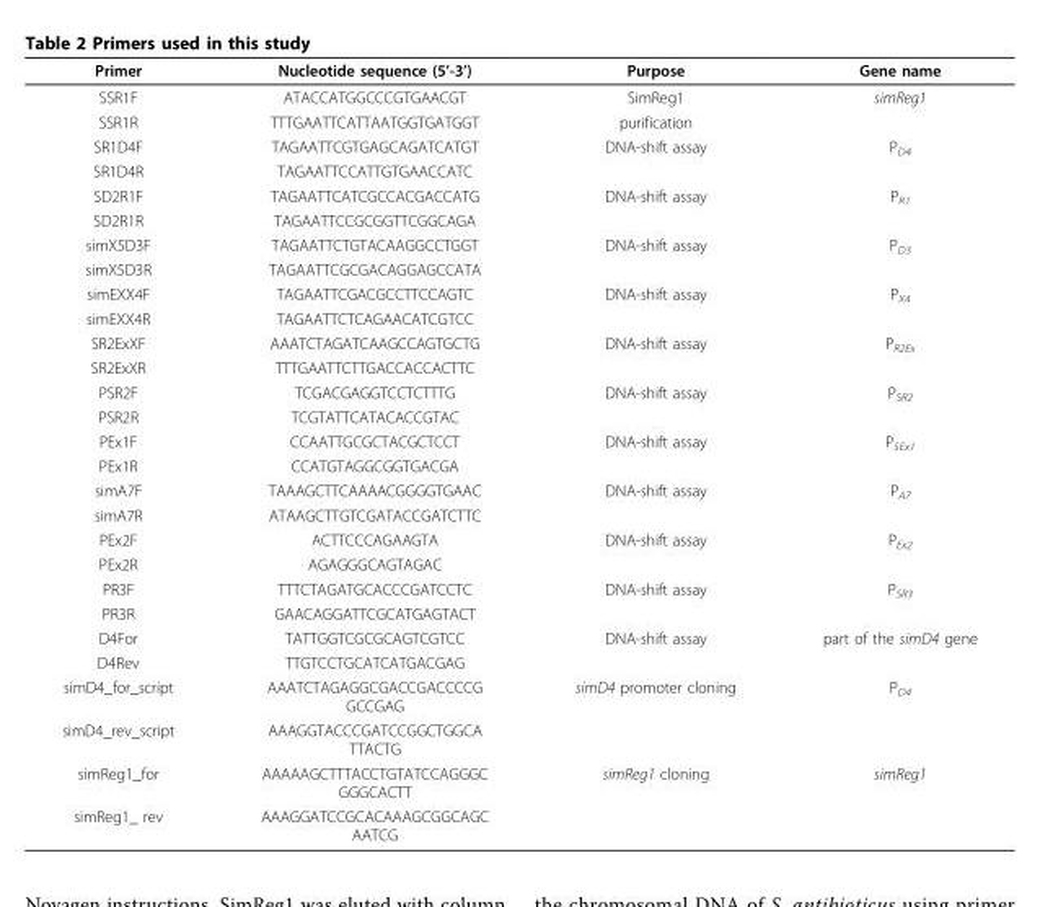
<table><thead><tr><td>Primer</td><td>Nucleotide sequence (5’-3’)</td><td>Purpose</td><td>Gene name</td></tr></thead><tbody><tr><td>SSR1F</td><td>ATACCATGGCCCGTGAACGT</td><td>SimReg1</td><td>simReg1</td></tr><tr><td>SSR1R</td><td>TTTGAATTCATTAATGGTGATGGT</td><td>purification</td><td></td></tr><tr><td>SR1D4F</td><td>TAGAATTCGTGAGCAGATCATGT</td><td>DNA-shift assay</td><td>P<sub>D4</sub></td></tr><tr><td>SR1D4R</td><td>TAGAATTCCATTGTGAACCATC</td><td></td><td></td></tr><tr><td>SD2R1F</td><td>TAGAATTCATCGCCACGACCATG</td><td>DNA-shift assay</td><td>P<sub>R1</sub></td></tr><tr><td>SD2R1R</td><td>TAGAATTCCGCGGTTCGGCAGA</td><td></td><td></td></tr><tr><td>simX5D3F</td><td>TAGAATTCTGTACAAGGCCTGGT</td><td>DNA-shift assay</td><td>P<sub>D3</sub></td></tr><tr><td>simX5D3R</td><td>TAGAATTCGCGACAGGAGCCATA</td><td></td><td></td></tr><tr><td>simEXX4F</td><td>TAGAATTCGACGCCTTCCAGTC</td><td>DNA-shift assay</td><td>P<sub>X4</sub></td></tr><tr><td>simEXX4R</td><td>TAGAATTCTCAGAACATCGTCC</td><td></td><td></td></tr><tr><td>SR2ExXF</td><td>AAATCTAGATCAAGCCAGTGCTG</td><td>DNA-shift assay</td><td>P<sub>R2Ex</sub></td></tr><tr><td>SR2ExXR</td><td>TTTGAATTCTTGACCACCACTTC</td><td></td><td></td></tr><tr><td>PSR2F</td><td>TCGACGAGGTCCTCTTTG</td><td>DNA-shift assay</td><td>P<sub>SR2</sub></td></tr><tr><td>PSR2R</td><td>TCGTATTCATACACCGTAC</td><td></td><td></td></tr><tr><td>PEx1F</td><td>CCAATTGCGCTACGCTCCT</td><td>DNA-shift assay</td><td>P<sub>SEx1</sub></td></tr><tr><td>PEx1R</td><td>CCATGTAGGCGGTGACGA</td><td></td><td></td></tr><tr><td>simA7F</td><td>TAAAGCTTCAAAACGGGGTGAAC</td><td>DNA-shift assay</td><td>P<sub>A7</sub></td></tr><tr><td>simA7R</td><td>ATAAGCTTGTCGATACCGATCTTC</td><td></td><td></td></tr><tr><td>PEx2F</td><td>ACTTCCCAGAAGTA</td><td>DNA-shift assay</td><td>P<sub>Ex2</sub></td></tr><tr><td>PEx2R</td><td>AGAGGGCAGTAGAC</td><td></td><td></td></tr><tr><td>PR3F</td><td>TTTCTAGATGCACCCGATCCTC</td><td>DNA-shift assay</td><td>P<sub>SR3</sub></td></tr><tr><td>PR3R</td><td>GAACAGGATTCGCATGAGTACT</td><td></td><td></td></tr><tr><td>D4For</td><td>TATTGGTCGCGCAGTCGTCC</td><td>DNA-shift assay</td><td>part of the simD4 gene</td></tr><tr><td>D4Rev</td><td>TTGTCCTGCATCATGACGAG</td><td></td><td></td></tr><tr><td>simD4_for_script</td><td>AAATCTAGAGGCGACCGACCCCG GCCGAG</td><td>simD4 promoter cloning</td><td>P<sub>D4</sub></td></tr><tr><td>simD4_rev_script</td><td>AAAGGTACCCGATCCGGCTGGCA TTACTG</td><td></td><td></td></tr><tr><td>simReg1_for</td><td>AAAAAGCTTTACCTGTATCCAGGGC GGGCACTT</td><td>simReg1 cloning</td><td>simReg1</td></tr><tr><td>simReg1_ rev</td><td>AAAGGATCCGCACAAAGCGGCAGC AATCG</td><td></td><td></td></tr></tbody></table>